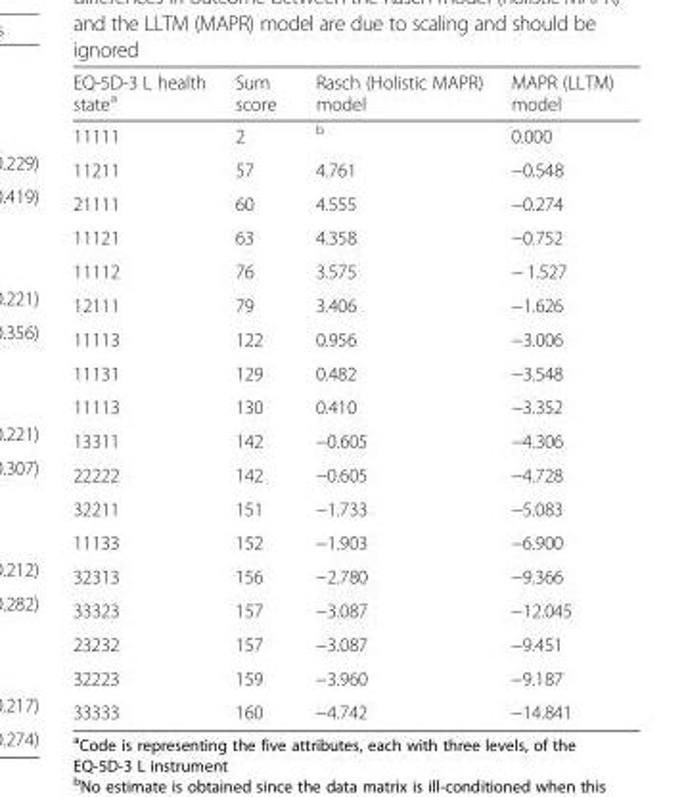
<table><thead><tr><td>EQ-5D-3 L health state<sup>a</sup></td><td>Sum score</td><td>Rasch (Holistic MAPR) model</td><td>MAPR (LLTM) model</td></tr></thead><tbody><tr><td>11111</td><td>2</td><td><sup>b</sup></td><td>0.000</td></tr><tr><td>11211</td><td>57</td><td>4.761</td><td>−0.548</td></tr><tr><td>21111</td><td>60</td><td>4.555</td><td>−0.274</td></tr><tr><td>11121</td><td>63</td><td>4.358</td><td>−0.752</td></tr><tr><td>11112</td><td>76</td><td>3.575</td><td>− 1.527</td></tr><tr><td>12111</td><td>79</td><td>3.406</td><td>−1.626</td></tr><tr><td>11113</td><td>122</td><td>0.956</td><td>−3.006</td></tr><tr><td>11131</td><td>129</td><td>0.482</td><td>−3.548</td></tr><tr><td>11113</td><td>130</td><td>0.410</td><td>−3.352</td></tr><tr><td>13311</td><td>142</td><td>−0.605</td><td>−4.306</td></tr><tr><td>22222</td><td>142</td><td>−0.605</td><td>−4.728</td></tr><tr><td>32211</td><td>151</td><td>−1.733</td><td>−5.083</td></tr><tr><td>11133</td><td>152</td><td>−1.903</td><td>−6.900</td></tr><tr><td>32313</td><td>156</td><td>−2.780</td><td>−9.366</td></tr><tr><td>33323</td><td>157</td><td>−3.087</td><td>−12.045</td></tr><tr><td>23232</td><td>157</td><td>−3.087</td><td>−9.451</td></tr><tr><td>32223</td><td>159</td><td>−3.960</td><td>−9.187</td></tr><tr><td>33333</td><td>160</td><td>−4.742</td><td>−14.841</td></tr></tbody></table>